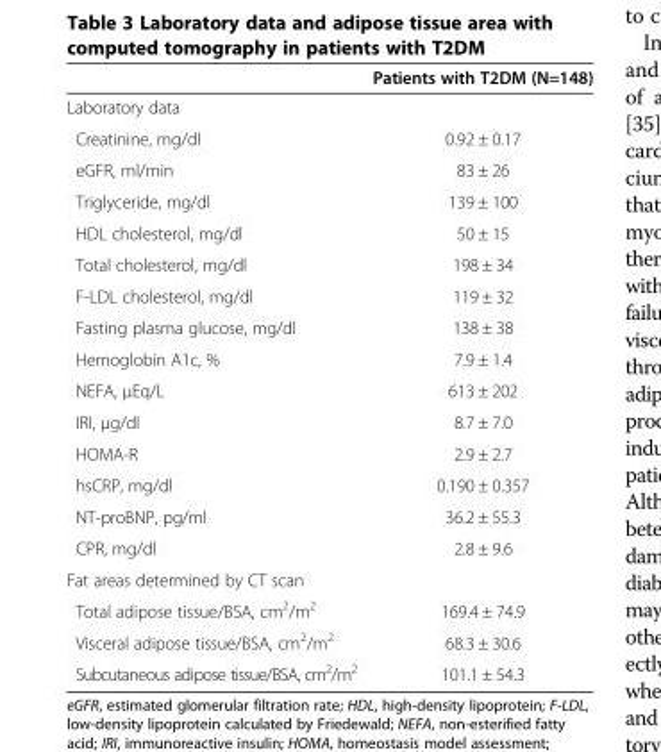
<table><thead><tr><td></td><td>Patients with T2DM (N=148)</td></tr></thead><tbody><tr><td colspan="2">Laboratory data</td></tr><tr><td>Creatinine, mg/dl</td><td>0.92 ± 0.17</td></tr><tr><td>eGFR, ml/min</td><td>83 ± 26</td></tr><tr><td>Triglyceride, mg/dl</td><td>139 ± 100</td></tr><tr><td>HDL cholesterol, mg/dl</td><td>50 ± 15</td></tr><tr><td>Total cholesterol, mg/dl</td><td>198 ± 34</td></tr><tr><td>F-LDL cholesterol, mg/dl</td><td>119 ± 32</td></tr><tr><td>Fasting plasma glucose, mg/dl</td><td>138 ± 38</td></tr><tr><td>Hemoglobin A1c, %</td><td>7.9 ± 1.4</td></tr><tr><td>NEFA, μEq/L</td><td>613 ± 202</td></tr><tr><td>IRI, μg/dl</td><td>8.7 ± 7.0</td></tr><tr><td>HOMA-R</td><td>2.9 ± 2.7</td></tr><tr><td>hsCRP, mg/dl</td><td>0.190 ± 0.357</td></tr><tr><td>NT-proBNP, pg/ml</td><td>36.2 ± 55.3</td></tr><tr><td>CPR, mg/dl</td><td>2.8 ± 9.6</td></tr><tr><td colspan="2">Fat areas determined by CT scan</td></tr><tr><td>Total adipose tissue/BSA, cm<sup>2</sup>/m<sup>2</sup></td><td>169.4 ± 74.9</td></tr><tr><td>Visceral adipose tissue/BSA, cm<sup>2</sup>/m<sup>2</sup></td><td>68.3 ± 30.6</td></tr><tr><td>Subcutaneous adipose tissue/BSA, cm<sup>2</sup>/m<sup>2</sup></td><td>101.1 ± 54.3</td></tr></tbody></table>